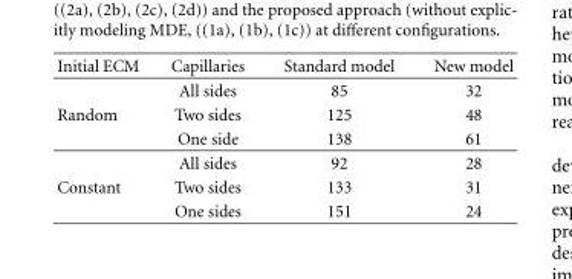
<table><thead><tr><td>Initial ECM</td><td>Capillaries</td><td>Standard model</td><td>New model</td></tr></thead><tbody><tr><td></td><td>All sides</td><td>85</td><td>32</td></tr><tr><td rowspan="3">Random</td><td>Two sides</td><td>125</td><td>48</td></tr><tr><td>One side</td><td>138</td><td>61</td></tr><tr><td>All sides</td><td>92</td><td>28</td></tr><tr><td rowspan="2">Constant</td><td>Two sides</td><td>133</td><td>31</td></tr><tr><td>One sides</td><td>151</td><td>24</td></tr></tbody></table>